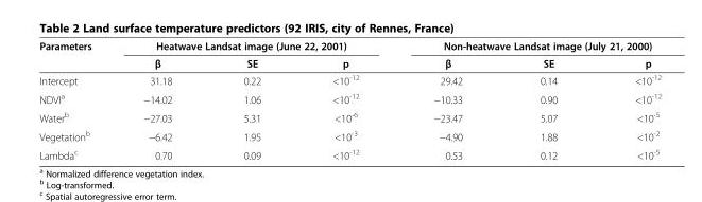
<table><thead><tr><td rowspan="2">Parameters</td><td colspan="3">Heatwave Landsat image (June 22, 2001)</td><td colspan="3">Non-heatwave Landsat image (July 21, 2000)</td></tr><tr><td>β</td><td>SE</td><td>p</td><td>β</td><td>SE</td><td>p</td></tr></thead><tbody><tr><td>Intercept</td><td>31.18</td><td>0.22</td><td>&lt;10<sup>-12</sup></td><td>29.42</td><td>0.14</td><td>&lt;10<sup>-12</sup></td></tr><tr><td>NDVI<sup>a</sup></td><td>−14.02</td><td>1.06</td><td>&lt;10<sup>-12</sup></td><td>−10.33</td><td>0.90</td><td>&lt;10<sup>-12</sup></td></tr><tr><td>Water<sup>b</sup></td><td>−27.03</td><td>5.31</td><td>&lt;10<sup>-6</sup></td><td>−23.47</td><td>5.07</td><td>&lt;10<sup>-5</sup></td></tr><tr><td>Vegetation<sup>b</sup></td><td>−6.42</td><td>1.95</td><td>&lt;10<sup>-3</sup></td><td>−4.90</td><td>1.88</td><td>&lt;10<sup>-2</sup></td></tr><tr><td>Lambda<sup>c</sup></td><td>0.70</td><td>0.09</td><td>&lt;10<sup>-12</sup></td><td>0.53</td><td>0.12</td><td>&lt;10<sup>-5</sup></td></tr></tbody></table>